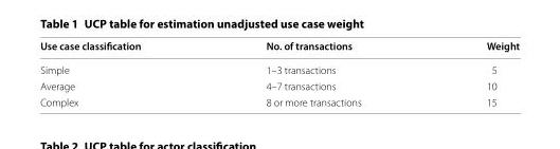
<table><thead><tr><td>Use case classification</td><td>No. of transactions</td><td>Weight</td></tr></thead><tbody><tr><td>Simple</td><td>1–3 transactions</td><td>5</td></tr><tr><td>Average</td><td>4–7 transactions</td><td>10</td></tr><tr><td>Complex</td><td>8 or more transactions</td><td>15</td></tr></tbody></table>